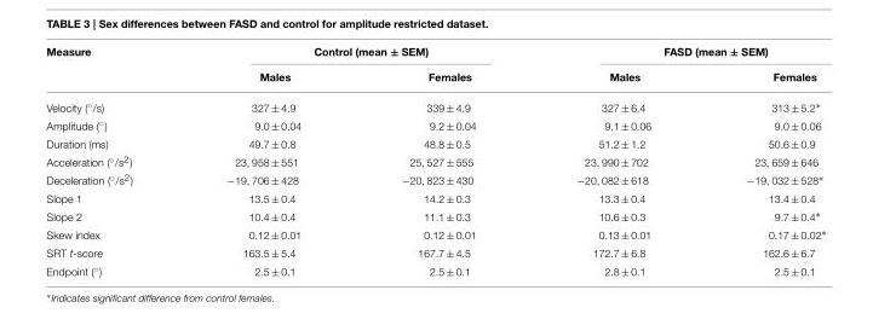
<table><thead><tr><td rowspan="2">Measure</td><td colspan="2">Control (mean ± SEM)</td><td colspan="2">FASD (mean ± SEM)</td></tr><tr><td>Males</td><td>Females</td><td>Males</td><td>Females</td></tr></thead><tbody><tr><td>Velocity (◦/s)</td><td>327 ± 4.9</td><td>339 ± 4.9</td><td>327 ± 6.4</td><td>313 ± 5.2∗</td></tr><tr><td>Amplitude (◦)</td><td>9.0 ± 0.04</td><td>9.2 ± 0.04</td><td>9.1 ± 0.06</td><td>9.0 ± 0.06</td></tr><tr><td>Duration (ms)</td><td>49.7 ± 0.8</td><td>48.8 ± 0.5</td><td>51.2 ± 1.2</td><td>50.6 ± 0.9</td></tr><tr><td>Acceleration (◦/s2)</td><td>23, 958 ± 551</td><td>25, 527 ± 555</td><td>23, 990 ± 702</td><td>23, 659 ± 646</td></tr><tr><td>Deceleration (◦/s2)</td><td>−19, 706 ± 428</td><td>−20, 823 ± 430</td><td>−20, 082 ± 618</td><td>−19, 032 ± 528∗</td></tr><tr><td>Slope 1</td><td>13.5 ± 0.4</td><td>14.2 ± 0.3</td><td>13.3 ± 0.4</td><td>13.4 ± 0.4</td></tr><tr><td>Slope 2</td><td>10.4 ± 0.4</td><td>11.1 ± 0.3</td><td>10.6 ± 0.3</td><td>9.7 ± 0.4∗</td></tr><tr><td>Skew index</td><td>0.12 ± 0.01</td><td>0.12 ± 0.01</td><td>0.13 ± 0.01</td><td>0.17 ± 0.02∗</td></tr><tr><td>SRT t-score</td><td>163.5 ± 5.4</td><td>167.7 ± 4.5</td><td>172.7 ± 6.8</td><td>162.6 ± 6.7</td></tr><tr><td>Endpoint (◦)</td><td>2.5 ± 0.1</td><td>2.5 ± 0.1</td><td>2.8 ± 0.1</td><td>2.5 ± 0.1</td></tr></tbody></table>